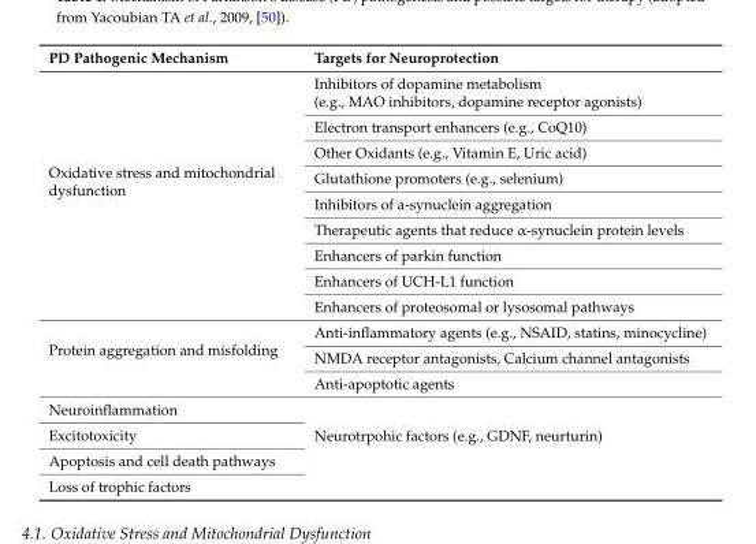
<table><thead><tr><td>PD Pathogenic Mechanism</td><td>Targets for Neuroprotection</td></tr></thead><tbody><tr><td rowspan="9">Oxidative stress and mitochondrial dysfunction</td><td>Inhibitors of dopamine metabolism (e.g., MAO inhibitors, dopamine receptor agonists)</td></tr><tr><td>Electron transport enhancers (e.g., CoQ10)</td></tr><tr><td>Other Oxidants (e.g., Vitamin E, Uric acid)</td></tr><tr><td>Glutathione promoters (e.g., selenium)</td></tr><tr><td>Inhibitors of a-synuclein aggregation</td></tr><tr><td>Therapeutic agents that reduce α-synuclein protein levels</td></tr><tr><td>Enhancers of parkin function</td></tr><tr><td>Enhancers of UCH-L1 function</td></tr><tr><td>Enhancers of proteosomal or lysosomal pathways</td></tr><tr><td rowspan="3">Protein aggregation and misfolding</td><td>Anti-inflammatory agents (e.g., NSAID, statins, minocycline)</td></tr><tr><td>NMDA receptor antagonists, Calcium channel antagonists</td></tr><tr><td>Anti-apoptotic agents</td></tr><tr><td>Neuroinflammation</td><td rowspan="4">Neurotrpohic factors (e.g., GDNF, neurturin)</td></tr><tr><td>Excitotoxicity</td></tr><tr><td>Apoptosis and cell death pathways</td></tr><tr><td>Loss of trophic factors</td></tr></tbody></table>